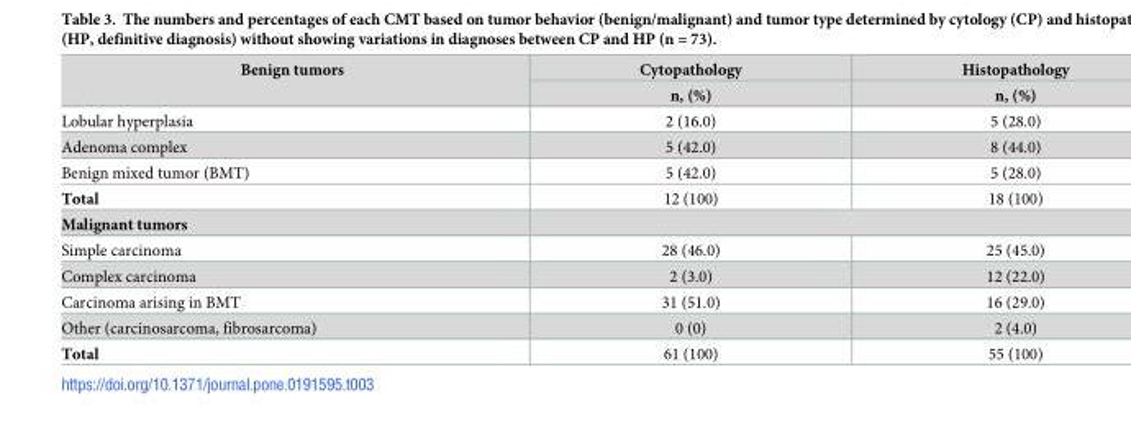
<table><thead><tr><td rowspan="2">Benign tumors</td><td rowspan="2">Cytopathology n, (%)</td><td rowspan="2">Histopathology n, (%)</td></tr><tr></tr></thead><tbody><tr><td>Lobular hyperplasia</td><td>2 (16.0)</td><td>5 (28.0)</td></tr><tr><td>Adenoma complex</td><td>5 (42.0)</td><td>8 (44.0)</td></tr><tr><td>Benign mixed tumor (BMT)</td><td>5 (42.0)</td><td>5 (28.0)</td></tr><tr><td>Total</td><td>12 (100)</td><td>18 (100)</td></tr><tr><td colspan="3">Malignant tumors</td></tr><tr><td>Simple carcinoma</td><td>28 (46.0)</td><td>25 (45.0)</td></tr><tr><td>Complex carcinoma</td><td>2 (3.0)</td><td>12 (22.0)</td></tr><tr><td>Carcinoma arising in BMT</td><td>31 (51.0)</td><td>16 (29.0)</td></tr><tr><td>Other (carcinosarcoma, fibrosarcoma)</td><td>0 (0)</td><td>2 (4.0)</td></tr><tr><td>Total</td><td>61 (100)</td><td>55 (100)</td></tr></tbody></table>